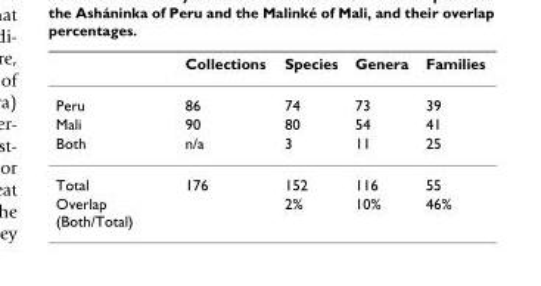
<table><thead><tr><td></td><td>Collections</td><td>Species</td><td>Genera</td><td>Families</td></tr></thead><tbody><tr><td>Peru</td><td>86</td><td>74</td><td>73</td><td>39</td></tr><tr><td>Mali</td><td>90</td><td>80</td><td>54</td><td>41</td></tr><tr><td>Both</td><td>n/a</td><td>3</td><td>11</td><td>25</td></tr><tr><td>Total</td><td>176</td><td>152</td><td>116</td><td>55</td></tr><tr><td>Overlap (Both/Total)</td><td></td><td>2%</td><td>10%</td><td>46%</td></tr></tbody></table>